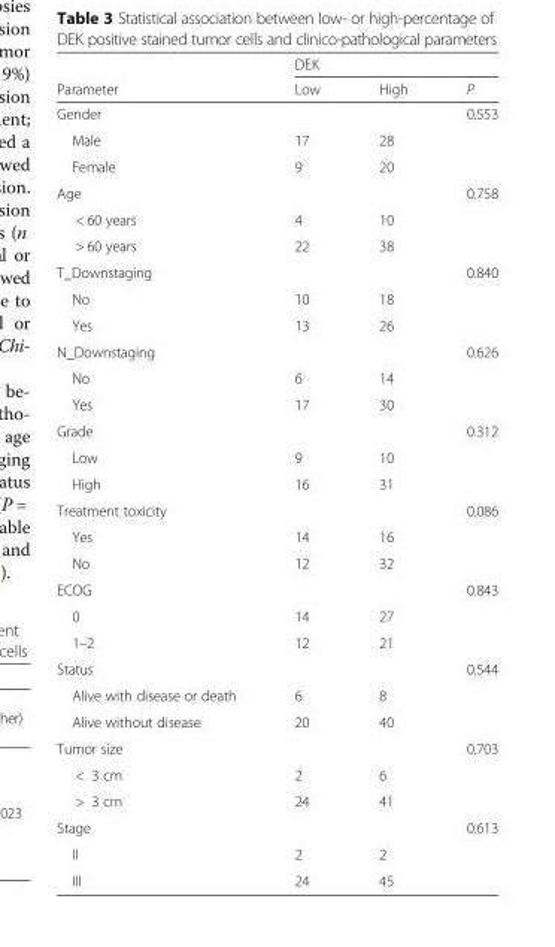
<table><thead><tr><td rowspan="2">Parameter</td><td colspan="3">DEK</td></tr><tr><td>Low</td><td>High</td><td>P</td></tr></thead><tbody><tr><td colspan="3">Gender</td><td>0.553</td></tr><tr><td>Male</td><td>17</td><td>28</td><td></td></tr><tr><td>Female</td><td>9</td><td>20</td><td></td></tr><tr><td colspan="3">Age</td><td>0.758</td></tr><tr><td>&lt; 60 years</td><td>4</td><td>10</td><td></td></tr><tr><td>&gt; 60 years</td><td>22</td><td>38</td><td></td></tr><tr><td colspan="3">T_Downstaging</td><td>0.840</td></tr><tr><td>No</td><td>10</td><td>18</td><td></td></tr><tr><td>Yes</td><td>13</td><td>26</td><td></td></tr><tr><td colspan="3">N_Downstaging</td><td>0.626</td></tr><tr><td>No</td><td>6</td><td>14</td><td></td></tr><tr><td>Yes</td><td>17</td><td>30</td><td></td></tr><tr><td colspan="3">Grade</td><td>0.312</td></tr><tr><td>Low</td><td>9</td><td>10</td><td></td></tr><tr><td>High</td><td>16</td><td>31</td><td></td></tr><tr><td colspan="3">Treatment toxicity</td><td>0.086</td></tr><tr><td>Yes</td><td>14</td><td>16</td><td></td></tr><tr><td>No</td><td>12</td><td>32</td><td></td></tr><tr><td colspan="3">ECOG</td><td>0.843</td></tr><tr><td>0</td><td>14</td><td>27</td><td></td></tr><tr><td>1–2</td><td>12</td><td>21</td><td></td></tr><tr><td colspan="3">Status</td><td>0.544</td></tr><tr><td>Alive with disease or death</td><td>6</td><td>8</td><td></td></tr><tr><td>Alive without disease</td><td>20</td><td>40</td><td></td></tr><tr><td colspan="3">Tumor size</td><td>0.703</td></tr><tr><td>&lt; 3 cm</td><td>2</td><td>6</td><td></td></tr><tr><td>&gt; 3 cm</td><td>24</td><td>41</td><td></td></tr><tr><td colspan="3">Stage</td><td>0.613</td></tr><tr><td>II</td><td>2</td><td>2</td><td></td></tr><tr><td>III</td><td>24</td><td>45</td><td></td></tr></tbody></table>